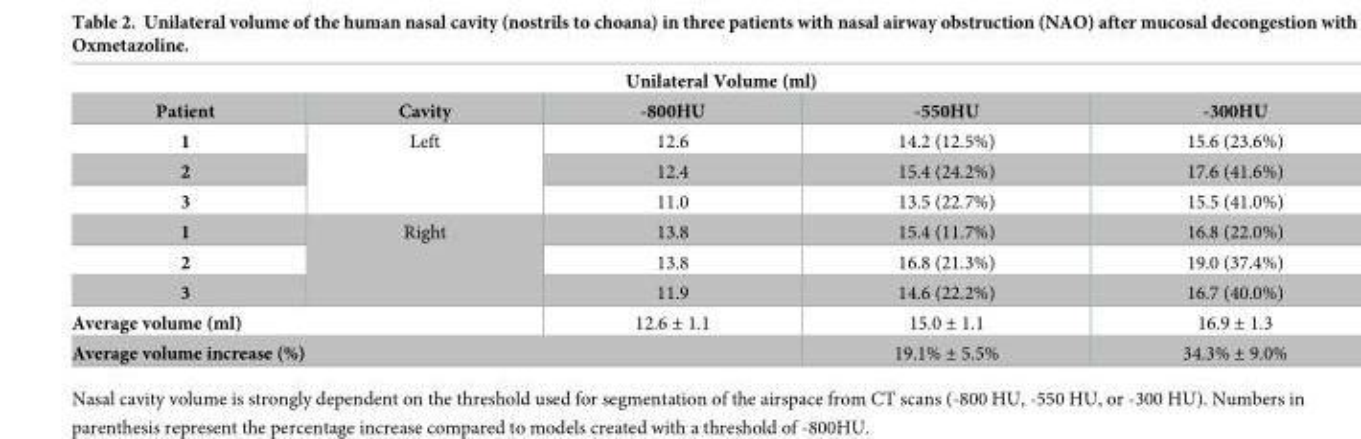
<table><thead><tr><td colspan="5">Unilateral Volume (ml)</td></tr><tr><td>Patient</td><td>Cavity</td><td>-800HU</td><td>-550HU</td><td>-300HU</td></tr></thead><tbody><tr><td>1</td><td rowspan="3">Left</td><td>12.6</td><td>14.2 (12.5%)</td><td>15.6 (23.6%)</td></tr><tr><td>2</td><td>12.4</td><td>15.4 (24.2%)</td><td>17.6 (41.6%)</td></tr><tr><td>3</td><td>11.0</td><td>13.5 (22.7%)</td><td>15.5 (41.0%)</td></tr><tr><td>1</td><td rowspan="3">Right</td><td>13.8</td><td>15.4 (11.7%)</td><td>16.8 (22.0%)</td></tr><tr><td>2</td><td>13.8</td><td>16.8 (21.3%)</td><td>19.0 (37.4%)</td></tr><tr><td>3</td><td>11.9</td><td>14.6 (22.2%)</td><td>16.7 (40.0%)</td></tr><tr><td colspan="2">Average volume (ml)</td><td>12.6 ± 1.1</td><td>15.0 ± 1.1</td><td>16.9 ± 1.3</td></tr><tr><td colspan="3">Average volume increase (%)</td><td>19.1% ± 5.5%</td><td>34.3% ± 9.0%</td></tr></tbody></table>